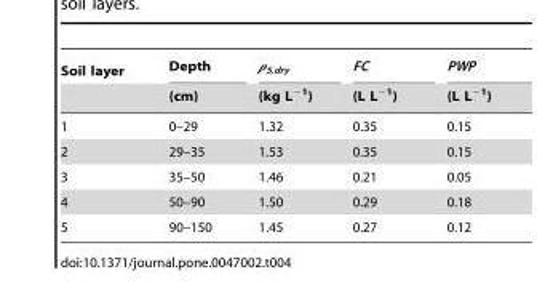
<table><thead><tr><td rowspan="2">Soil layer</td><td rowspan="2">Depth (cm)</td><td rowspan="2">ρ<sub>S,dry</sub> (kg L<sup>−1</sup>)</td><td rowspan="2">FC (L L<sup>−1</sup>)</td><td rowspan="2">PWP (L L<sup>−1</sup>)</td></tr><tr></tr></thead><tbody><tr><td>1</td><td>0–29</td><td>1.32</td><td>0.35</td><td>0.15</td></tr><tr><td>2</td><td>29–35</td><td>1.53</td><td>0.35</td><td>0.15</td></tr><tr><td>3</td><td>35–50</td><td>1.46</td><td>0.21</td><td>0.05</td></tr><tr><td>4</td><td>50–90</td><td>1.50</td><td>0.29</td><td>0.18</td></tr><tr><td>5</td><td>90–150</td><td>1.45</td><td>0.27</td><td>0.12</td></tr></tbody></table>